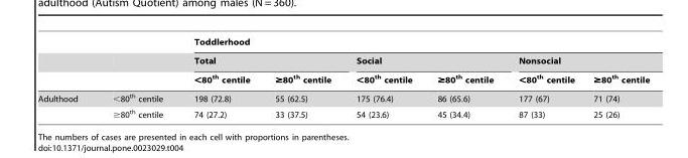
<table><thead><tr><td rowspan="3"></td><td rowspan="3"></td><td colspan="6">Toddlerhood</td></tr><tr><td colspan="2">Total</td><td colspan="2">Social</td><td colspan="2">Nonsocial</td></tr><tr><td>&lt;80<sup>th</sup> centile</td><td>≥80<sup>th</sup> centile</td><td>&lt;80<sup>th</sup> centile</td><td>≥80<sup>th</sup> centile</td><td>&lt;80<sup>th</sup> centile</td><td>≥80<sup>th</sup> centile</td></tr></thead><tbody><tr><td rowspan="2">Adulthood</td><td>&lt;80<sup>th</sup> centile</td><td>198 (72.8)</td><td>55 (62.5)</td><td>175 (76.4)</td><td>86 (65.6)</td><td>177 (67)</td><td>71 (74)</td></tr><tr><td>≥80<sup>th</sup> centile</td><td>74 (27.2)</td><td>33 (37.5)</td><td>54 (23.6)</td><td>45 (34.4)</td><td>87 (33)</td><td>25 (26)</td></tr></tbody></table>